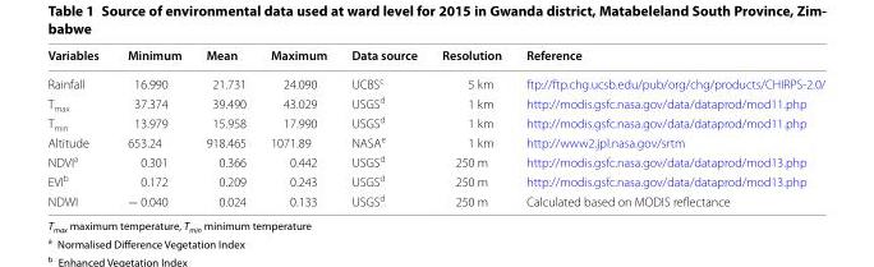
<table><thead><tr><td>Variables</td><td>Minimum</td><td>Mean</td><td>Maximum</td><td>Data source</td><td>Resolution</td><td>Reference</td></tr></thead><tbody><tr><td>Rainfall</td><td>16.990</td><td>21.731</td><td>24.090</td><td>UCBS<sup>c</sup></td><td>5 km</td><td>ftp://ftp.chg.ucsb.edu/pub/org/chg/products/CHIRPS-2.0/</td></tr><tr><td>T<sub>max</sub></td><td>37.374</td><td>39.490</td><td>43.029</td><td>USGS<sup>d</sup></td><td>1 km</td><td>http://modis.gsfc.nasa.gov/data/dataprod/mod11.php</td></tr><tr><td>T<sub>min</sub></td><td>13.979</td><td>15.958</td><td>17.990</td><td>USGS<sup>d</sup></td><td>1 km</td><td>http://modis.gsfc.nasa.gov/data/dataprod/mod11.php</td></tr><tr><td>Altitude</td><td>653.24</td><td>918.465</td><td>1071.89</td><td>NASA<sup>e</sup></td><td>1 km</td><td>http://www2.jpl.nasa.gov/srtm</td></tr><tr><td>NDVI<sup>a</sup></td><td>0.301</td><td>0.366</td><td>0.442</td><td>USGS<sup>d</sup></td><td>250 m</td><td>http://modis.gsfc.nasa.gov/data/dataprod/mod13.php</td></tr><tr><td>EVI<sup>b</sup></td><td>0.172</td><td>0.209</td><td>0.243</td><td>USGS<sup>d</sup></td><td>250 m</td><td>http://modis.gsfc.nasa.gov/data/dataprod/mod13.php</td></tr><tr><td>NDWI</td><td>− 0.040</td><td>0.024</td><td>0.133</td><td>USGS<sup>d</sup></td><td>250 m</td><td>Calculated based on MODIS reflectance</td></tr></tbody></table>